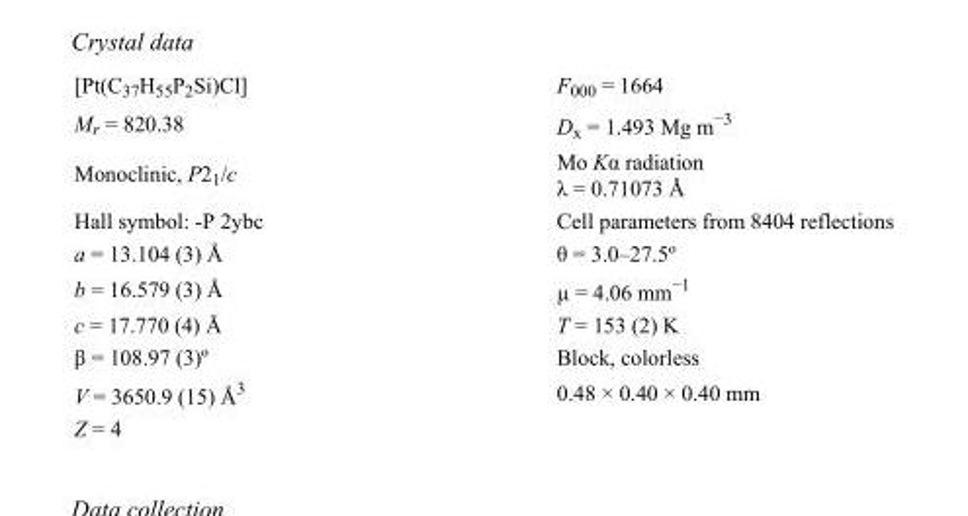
<table><tbody><tr><td>[Pt(C<sub>37</sub>H<sub>55</sub>P<sub>2</sub>Si)Cl]</td><td>F000 = 1664</td></tr><tr><td>M<sub>r</sub> = 820.38</td><td>D<sub>x</sub> = 1.493 Mg m<sup>−3</sup></td></tr><tr><td>Monoclinic, P2<sub>1</sub>/c</td><td>Mo Kα radiation λ = 0.71073 Å</td></tr><tr><td>Hall symbol: -P 2ybc</td><td>Cell parameters from 8404 reflections</td></tr><tr><td>a = 13.104 (3) Å</td><td>θ = 3.0–27.5º</td></tr><tr><td>b = 16.579 (3) Å</td><td>µ = 4.06 mm<sup>−1</sup></td></tr><tr><td>c = 17.770 (4) Å</td><td>T = 153 (2) K</td></tr><tr><td>β = 108.97 (3)º</td><td>Block, colorless</td></tr><tr><td>V = 3650.9 (15) Å<sup>3</sup></td><td>0.48 × 0.40 × 0.40 mm</td></tr><tr><td>Z = 4</td><td></td></tr></tbody></table>